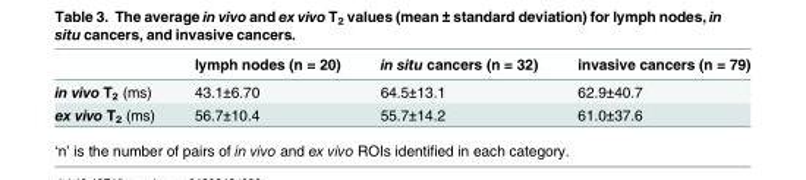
<table><thead><tr><td></td><td>lymph nodes (n = 20)</td><td>in situ cancers (n = 32)</td><td>invasive cancers (n = 79)</td></tr></thead><tbody><tr><td>in vivo T<sub>2</sub> (ms)</td><td>43.1±6.70</td><td>64.5±13.1</td><td>62.9±40.7</td></tr><tr><td>ex vivo T<sub>2</sub> (ms)</td><td>56.7±10.4</td><td>55.7±14.2</td><td>61.0±37.6</td></tr></tbody></table>